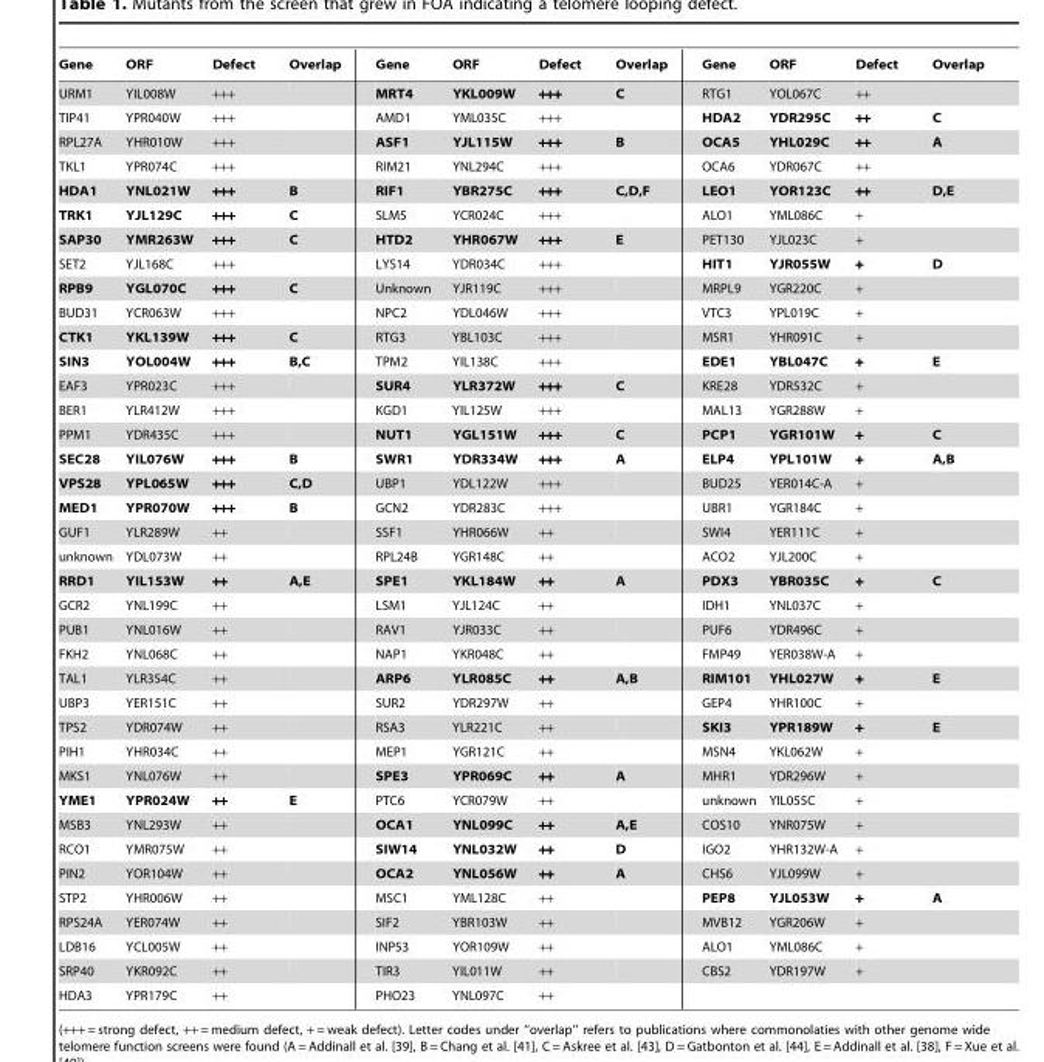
<table><thead><tr><td>Gene</td><td>ORF</td><td>Defect</td><td>Overlap</td><td>Gene</td><td>ORF</td><td>Defect</td><td>Overlap</td><td>Gene</td><td>ORF</td><td>Defect</td><td>Overlap</td></tr></thead><tbody><tr><td>URM1</td><td>YIL008W</td><td>+++</td><td></td><td>MRT4</td><td>YKL009W</td><td>+++</td><td>C</td><td>RTG1</td><td>YOL067C</td><td>++</td><td></td></tr><tr><td>TIP41</td><td>YPR040W</td><td>+++</td><td></td><td>AMD1</td><td>YML035C</td><td>+++</td><td></td><td>HDA2</td><td>YDR295C</td><td>++</td><td>C</td></tr><tr><td>RPL27A</td><td>YHR010W</td><td>+++</td><td></td><td>ASF1</td><td>YJL115W</td><td>+++</td><td>B</td><td>OCA5</td><td>YHL029C</td><td>++</td><td>A</td></tr><tr><td>TKL1</td><td>YPR074C</td><td>+++</td><td></td><td>RIM21</td><td>YNL294C</td><td>+++</td><td></td><td>OCA6</td><td>YDR067C</td><td>++</td><td></td></tr><tr><td>HDA1</td><td>YNL021W</td><td>+++</td><td>B</td><td>RIF1</td><td>YBR275C</td><td>+++</td><td>C,D,F</td><td>LEO1</td><td>YOR123C</td><td>++</td><td>D,E</td></tr><tr><td>TRK1</td><td>YJL129C</td><td>+++</td><td>C</td><td>SLM5</td><td>YCR024C</td><td>+++</td><td></td><td>ALO1</td><td>YML086C</td><td>+</td><td></td></tr><tr><td>SAP30</td><td>YMR263W</td><td>+++</td><td>C</td><td>HTD2</td><td>YHR067W</td><td>+++</td><td>E</td><td>PET130</td><td>YJL023C</td><td>+</td><td></td></tr><tr><td>SET2</td><td>YJL168C</td><td>+++</td><td></td><td>LYS14</td><td>YDR034C</td><td>+++</td><td></td><td>HIT1</td><td>YJR055W</td><td>+</td><td>D</td></tr><tr><td>RPB9</td><td>YGL070C</td><td>+++</td><td>C</td><td>Unknown</td><td>YJR119C</td><td>+++</td><td></td><td>MRPL9</td><td>YGR220C</td><td>+</td><td></td></tr><tr><td>BUD31</td><td>YCR063W</td><td>+++</td><td></td><td>NPC2</td><td>YDL046W</td><td>+++</td><td></td><td>VTC3</td><td>YPL019C</td><td>+</td><td></td></tr><tr><td>CTK1</td><td>YKL139W</td><td>+++</td><td>C</td><td>RTG3</td><td>YBL103C</td><td>+++</td><td></td><td>MSR1</td><td>YHR091C</td><td>+</td><td></td></tr><tr><td>SIN3</td><td>YOL004W</td><td>+++</td><td>B,C</td><td>TPM2</td><td>YIL138C</td><td>+++</td><td></td><td>EDE1</td><td>YBL047C</td><td>+</td><td>E</td></tr><tr><td>EAF3</td><td>YPR023C</td><td>+++</td><td></td><td>SUR4</td><td>YLR372W</td><td>+++</td><td>C</td><td>KRE28</td><td>YDR532C</td><td>+</td><td></td></tr><tr><td>BER1</td><td>YLR412W</td><td>+++</td><td></td><td>KGD1</td><td>YIL125W</td><td>+++</td><td></td><td>MAL13</td><td>YGR288W</td><td>+</td><td></td></tr><tr><td>PPM1</td><td>YDR435C</td><td>+++</td><td></td><td>NUT1</td><td>YGL151W</td><td>+++</td><td>C</td><td>PCP1</td><td>YGR101W</td><td>+</td><td>C</td></tr><tr><td>SEC28</td><td>YIL076W</td><td>+++</td><td>B</td><td>SWR1</td><td>YDR334W</td><td>+++</td><td>A</td><td>ELP4</td><td>YPL101W</td><td>+</td><td>A,B</td></tr><tr><td>VPS28</td><td>YPL065W</td><td>+++</td><td>C,D</td><td>UBP1</td><td>YDL122W</td><td>+++</td><td></td><td>BUD25</td><td>YER014C-A</td><td>+</td><td></td></tr><tr><td>MED1</td><td>YPR070W</td><td>+++</td><td>B</td><td>GCN2</td><td>YDR283C</td><td>+++</td><td></td><td>UBR1</td><td>YGR184C</td><td>+</td><td></td></tr><tr><td>GUF1</td><td>YLR289W</td><td>++</td><td></td><td>SSF1</td><td>YHR066W</td><td>++</td><td></td><td>SWI4</td><td>YER111C</td><td>+</td><td></td></tr><tr><td>unknown</td><td>YDL073W</td><td>++</td><td></td><td>RPL24B</td><td>YGR148C</td><td>++</td><td></td><td>ACO2</td><td>YJL200C</td><td>+</td><td></td></tr><tr><td>RRD1</td><td>YIL153W</td><td>++</td><td>A,E</td><td>SPE1</td><td>YKL184W</td><td>++</td><td>A</td><td>PDX3</td><td>YBR035C</td><td>+</td><td>C</td></tr><tr><td>GCR2</td><td>YNL199C</td><td>++</td><td></td><td>LSM1</td><td>YJL124C</td><td>++</td><td></td><td>IDH1</td><td>YNL037C</td><td>+</td><td></td></tr><tr><td>PUB1</td><td>YNL016W</td><td>++</td><td></td><td>RAV1</td><td>YJR033C</td><td>++</td><td></td><td>PUF6</td><td>YDR496C</td><td>+</td><td></td></tr><tr><td>FKH2</td><td>YNL068C</td><td>++</td><td></td><td>NAP1</td><td>YKR048C</td><td>++</td><td></td><td>FMP49</td><td>YER038W-A</td><td>+</td><td></td></tr><tr><td>TAL1</td><td>YLR354C</td><td>++</td><td></td><td>ARP6</td><td>YLR085C</td><td>++</td><td>A,B</td><td>RIM101</td><td>YHL027W</td><td>+</td><td>E</td></tr><tr><td>UBP3</td><td>YER151C</td><td>++</td><td></td><td>SUR2</td><td>YDR297W</td><td>++</td><td></td><td>GEP4</td><td>YHR100C</td><td>+</td><td></td></tr><tr><td>TPS2</td><td>YDR074W</td><td>++</td><td></td><td>RSA3</td><td>YLR221C</td><td>++</td><td></td><td>SKI3</td><td>YPR189W</td><td>+</td><td>E</td></tr><tr><td>PIH1</td><td>YHR034C</td><td>++</td><td></td><td>MEP1</td><td>YGR121C</td><td>++</td><td></td><td>MSN4</td><td>YKL062W</td><td>+</td><td></td></tr><tr><td>MKS1</td><td>YNL076W</td><td>++</td><td></td><td>SPE3</td><td>YPR069C</td><td>++</td><td>A</td><td>MHR1</td><td>YDR296W</td><td>+</td><td></td></tr><tr><td>YME1</td><td>YPR024W</td><td>++</td><td>E</td><td>PTC6</td><td>YCR079W</td><td>++</td><td></td><td>unknown</td><td>YIL055C</td><td>+</td><td></td></tr><tr><td>MSB3</td><td>YNL293W</td><td>++</td><td></td><td>OCA1</td><td>YNL099C</td><td>++</td><td>A,E</td><td>COS10</td><td>YNR075W</td><td>+</td><td></td></tr><tr><td>RCO1</td><td>YMR075W</td><td>++</td><td></td><td>SIW14</td><td>YNL032W</td><td>++</td><td>D</td><td>IGO2</td><td>YHR132W-A</td><td>+</td><td></td></tr><tr><td>PIN2</td><td>YOR104W</td><td>++</td><td></td><td>OCA2</td><td>YNL056W</td><td>++</td><td>A</td><td>CHS6</td><td>YJL099W</td><td>+</td><td></td></tr><tr><td>STP2</td><td>YHR006W</td><td>++</td><td></td><td>MSC1</td><td>YML128C</td><td>++</td><td></td><td>PEP8</td><td>YJL053W</td><td>+</td><td>A</td></tr><tr><td>RPS24A</td><td>YER074W</td><td>++</td><td></td><td>SIF2</td><td>YBR103W</td><td>++</td><td></td><td>MVB12</td><td>YGR206W</td><td>+</td><td></td></tr><tr><td>LDB16</td><td>YCL005W</td><td>++</td><td></td><td>INP53</td><td>YOR109W</td><td>++</td><td></td><td>ALO1</td><td>YML086C</td><td>+</td><td></td></tr><tr><td>SRP40</td><td>YKR092C</td><td>++</td><td></td><td>TIR3</td><td>YIL011W</td><td>++</td><td></td><td>CBS2</td><td>YDR197W</td><td>+</td><td></td></tr><tr><td>HDA3</td><td>YPR179C</td><td>++</td><td></td><td>PHO23</td><td>YNL097C</td><td>++</td><td></td><td></td><td></td><td></td><td></td></tr></tbody></table>